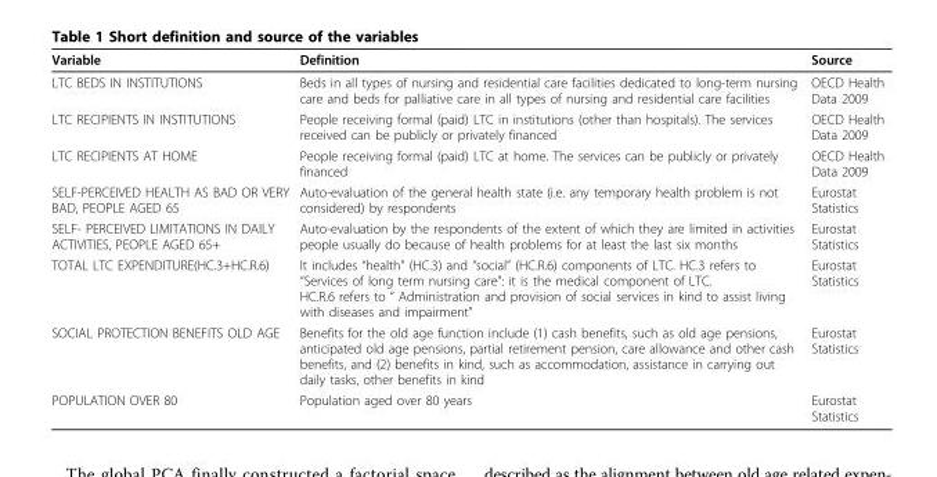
<table><thead><tr><td>Variable</td><td>Definition</td><td>Source</td></tr></thead><tbody><tr><td>LTC BEDS IN INSTITUTIONS</td><td>Beds in all types of nursing and residential care facilities dedicated to long-term nursing care and beds for palliative care in all types of nursing and residential care facilities</td><td>OECD Health Data 2009</td></tr><tr><td>LTC RECIPIENTS IN INSTITUTIONS</td><td>People receiving formal (paid) LTC in institutions (other than hospitals). The services received can be publicly or privately financed</td><td>OECD Health Data 2009</td></tr><tr><td>LTC RECIPIENTS AT HOME</td><td>People receiving formal (paid) LTC at home. The services can be publicly or privately financed</td><td>OECD Health Data 2009</td></tr><tr><td>SELF-PERCEIVED HEALTH AS BAD OR VERY BAD, PEOPLE AGED 65</td><td>Auto-evaluation of the general health state (i.e. any temporary health problem is not considered) by respondents</td><td>Eurostat Statistics</td></tr><tr><td>SELF- PERCEIVED LIMITATIONS IN DAILY ACTIVITIES, PEOPLE AGED 65+</td><td>Auto-evaluation by the respondents of the extent of which they are limited in activities people usually do because of health problems for at least the last six months</td><td>Eurostat Statistics</td></tr><tr><td>TOTAL LTC EXPENDITURE(HC.3+HC.R.6)</td><td>It includes “health” (HC.3) and “social” (HC.R.6) components of LTC. HC.3 refers to “Services of long term nursing care&quot;: it is the medical component of LTC. HC.R.6 refers to “ Administration and provision of social services in kind to assist living with diseases and impairment”</td><td>Eurostat Statistics</td></tr><tr><td>SOCIAL PROTECTION BENEFITS OLD AGE</td><td>Benefits for the old age function include (1) cash benefits, such as old age pensions, anticipated old age pensions, partial retirement pension, care allowance and other cash benefits, and (2) benefits in kind, such as accommodation, assistance in carrying out daily tasks, other benefits in kind</td><td>Eurostat Statistics</td></tr><tr><td>POPULATION OVER 80</td><td>Population aged over 80 years</td><td>Eurostat Statistics</td></tr></tbody></table>